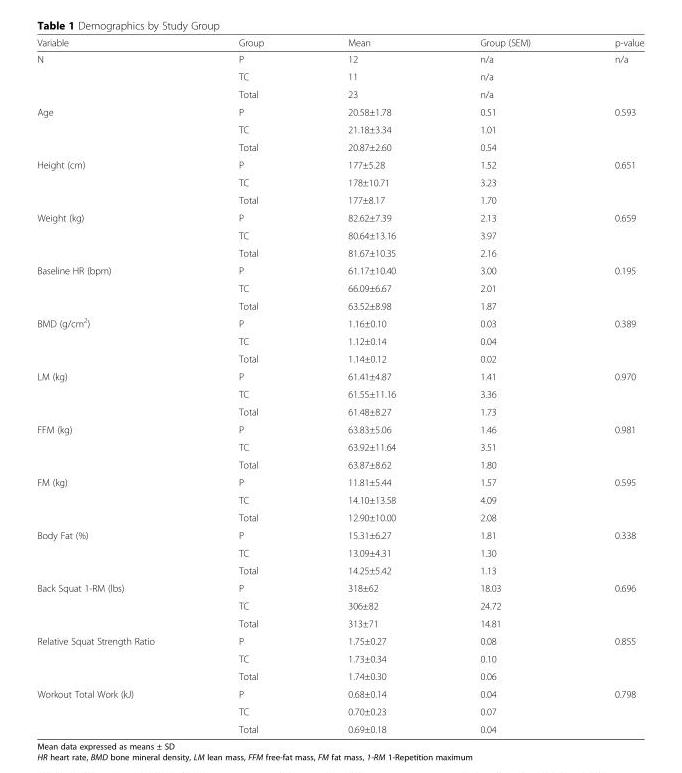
<table><thead><tr><td>Variable</td><td>Group</td><td>Mean</td><td>Group (SEM)</td><td>p-value</td></tr></thead><tbody><tr><td rowspan="3">N</td><td>P</td><td>12</td><td>n/a</td><td>n/a</td></tr><tr><td>TC</td><td>11</td><td>n/a</td><td></td></tr><tr><td>Total</td><td>23</td><td>n/a</td><td></td></tr><tr><td rowspan="3">Age</td><td>P</td><td>20.58±1.78</td><td>0.51</td><td>0.593</td></tr><tr><td>TC</td><td>21.18±3.34</td><td>1.01</td><td></td></tr><tr><td>Total</td><td>20.87±2.60</td><td>0.54</td><td></td></tr><tr><td rowspan="3">Height (cm)</td><td>P</td><td>177±5.28</td><td>1.52</td><td>0.651</td></tr><tr><td>TC</td><td>178±10.71</td><td>3.23</td><td></td></tr><tr><td>Total</td><td>177±8.17</td><td>1.70</td><td></td></tr><tr><td rowspan="3">Weight (kg)</td><td>P</td><td>82.62±7.39</td><td>2.13</td><td>0.659</td></tr><tr><td>TC</td><td>80.64±13.16</td><td>3.97</td><td></td></tr><tr><td>Total</td><td>81.67±10.35</td><td>2.16</td><td></td></tr><tr><td rowspan="3">Baseline HR (bpm)</td><td>P</td><td>61.17±10.40</td><td>3.00</td><td>0.195</td></tr><tr><td>TC</td><td>66.09±6.67</td><td>2.01</td><td></td></tr><tr><td>Total</td><td>63.52±8.98</td><td>1.87</td><td></td></tr><tr><td rowspan="3">BMD (g/cm<sup>2</sup>)</td><td>P</td><td>1.16±0.10</td><td>0.03</td><td>0.389</td></tr><tr><td>TC</td><td>1.12±0.14</td><td>0.04</td><td></td></tr><tr><td>Total</td><td>1.14±0.12</td><td>0.02</td><td></td></tr><tr><td rowspan="3">LM (kg)</td><td>P</td><td>61.41±4.87</td><td>1.41</td><td>0.970</td></tr><tr><td>TC</td><td>61.55±11.16</td><td>3.36</td><td></td></tr><tr><td>Total</td><td>61.48±8.27</td><td>1.73</td><td></td></tr><tr><td rowspan="3">FFM (kg)</td><td>P</td><td>63.83±5.06</td><td>1.46</td><td>0.981</td></tr><tr><td>TC</td><td>63.92±11.64</td><td>3.51</td><td></td></tr><tr><td>Total</td><td>63.87±8.62</td><td>1.80</td><td></td></tr><tr><td rowspan="3">FM (kg)</td><td>P</td><td>11.81±5.44</td><td>1.57</td><td>0.595</td></tr><tr><td>TC</td><td>14.10±13.58</td><td>4.09</td><td></td></tr><tr><td>Total</td><td>12.90±10.00</td><td>2.08</td><td></td></tr><tr><td rowspan="3">Body Fat (%)</td><td>P</td><td>15.31±6.27</td><td>1.81</td><td>0.338</td></tr><tr><td>TC</td><td>13.09±4.31</td><td>1.30</td><td></td></tr><tr><td>Total</td><td>14.25±5.42</td><td>1.13</td><td></td></tr><tr><td rowspan="3">Back Squat 1-RM (lbs)</td><td>P</td><td>318±62</td><td>18.03</td><td>0.696</td></tr><tr><td>TC</td><td>306±82</td><td>24.72</td><td></td></tr><tr><td>Total</td><td>313±71</td><td>14.81</td><td></td></tr><tr><td rowspan="3">Relative Squat Strength Ratio</td><td>P</td><td>1.75±0.27</td><td>0.08</td><td>0.855</td></tr><tr><td>TC</td><td>1.73±0.34</td><td>0.10</td><td></td></tr><tr><td>Total</td><td>1.74±0.30</td><td>0.06</td><td></td></tr><tr><td rowspan="3">Workout Total Work (kJ)</td><td>P</td><td>0.68±0.14</td><td>0.04</td><td>0.798</td></tr><tr><td>TC</td><td>0.70±0.23</td><td>0.07</td><td></td></tr><tr><td>Total</td><td>0.69±0.18</td><td>0.04</td><td></td></tr></tbody></table>